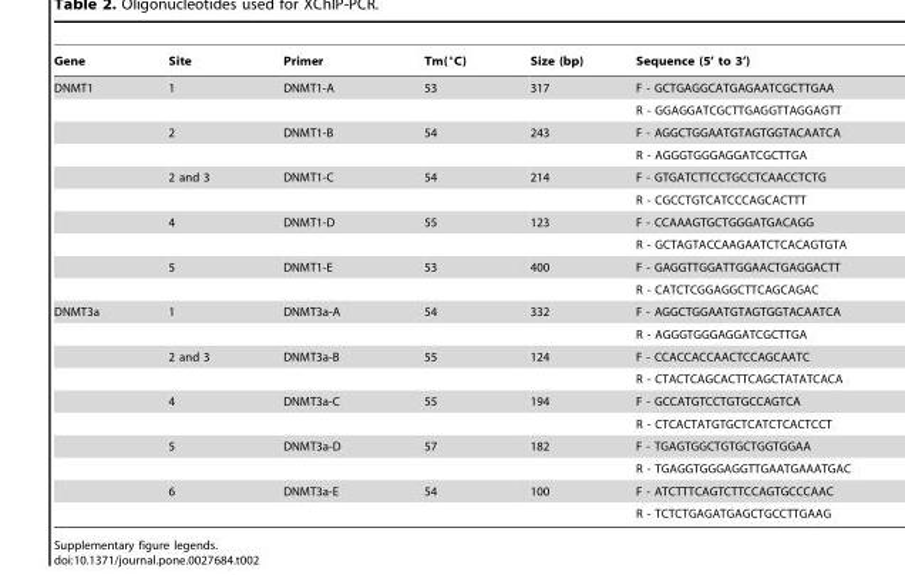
<table><thead><tr><td>Gene</td><td>Site</td><td>Primer</td><td>Tm(°C)</td><td>Size (bp)</td><td>Sequence (5’ to 3’)</td></tr></thead><tbody><tr><td rowspan="10">DNMT1</td><td>1</td><td>DNMT1-A</td><td>53</td><td>317</td><td>F - GCTGAGGCATGAGAATCGCTTGAA</td></tr><tr><td></td><td></td><td></td><td></td><td>R - GGAGGATCGCTTGAGGTTAGGAGTT</td></tr><tr><td>2</td><td>DNMT1-B</td><td>54</td><td>243</td><td>F - AGGCTGGAATGTAGTGGTACAATCA</td></tr><tr><td></td><td></td><td></td><td></td><td>R - AGGGTGGGAGGATCGCTTGA</td></tr><tr><td>2 and 3</td><td>DNMT1-C</td><td>54</td><td>214</td><td>F - GTGATCTTCCTGCCTCAACCTCTG</td></tr><tr><td></td><td></td><td></td><td></td><td>R - CGCCTGTCATCCCAGCACTTT</td></tr><tr><td>4</td><td>DNMT1-D</td><td>55</td><td>123</td><td>F - CCAAAGTGCTGGGATGACAGG</td></tr><tr><td></td><td></td><td></td><td></td><td>R - GCTAGTACCAAGAATCTCACAGTGTA</td></tr><tr><td>5</td><td>DNMT1-E</td><td>53</td><td>400</td><td>F - GAGGTTGGATTGGAACTGAGGACTT</td></tr><tr><td></td><td></td><td></td><td></td><td>R - CATCTCGGAGGCTTCAGCAGAC</td></tr><tr><td rowspan="10">DNMT3a</td><td>1</td><td>DNMT3a-A</td><td>54</td><td>332</td><td>F - AGGCTGGAATGTAGTGGTACAATCA</td></tr><tr><td></td><td></td><td></td><td></td><td>R - AGGGTGGGAGGATCGCTTGA</td></tr><tr><td>2 and 3</td><td>DNMT3a-B</td><td>55</td><td>124</td><td>F - CCACCACCAACTCCAGCAATC</td></tr><tr><td></td><td></td><td></td><td></td><td>R - CTACTCAGCACTTCAGCTATATCACA</td></tr><tr><td>4</td><td>DNMT3a-C</td><td>55</td><td>194</td><td>F - GCCATGTCCTGTGCCAGTCA</td></tr><tr><td></td><td></td><td></td><td></td><td>R - CTCACTATGTGCTCATCTCACTCCT</td></tr><tr><td>5</td><td>DNMT3a-D</td><td>57</td><td>182</td><td>F - TGAGTGGCTGTGCTGGTGGAA</td></tr><tr><td></td><td></td><td></td><td></td><td>R - TGAGGTGGGAGGTTGAATGAAATGAC</td></tr><tr><td>6</td><td>DNMT3a-E</td><td>54</td><td>100</td><td>F - ATCTTTCAGTCTTCCAGTGCCCAAC</td></tr><tr><td></td><td></td><td></td><td></td><td>R - TCTCTGAGATGAGCTGCCTTGAAG</td></tr></tbody></table>